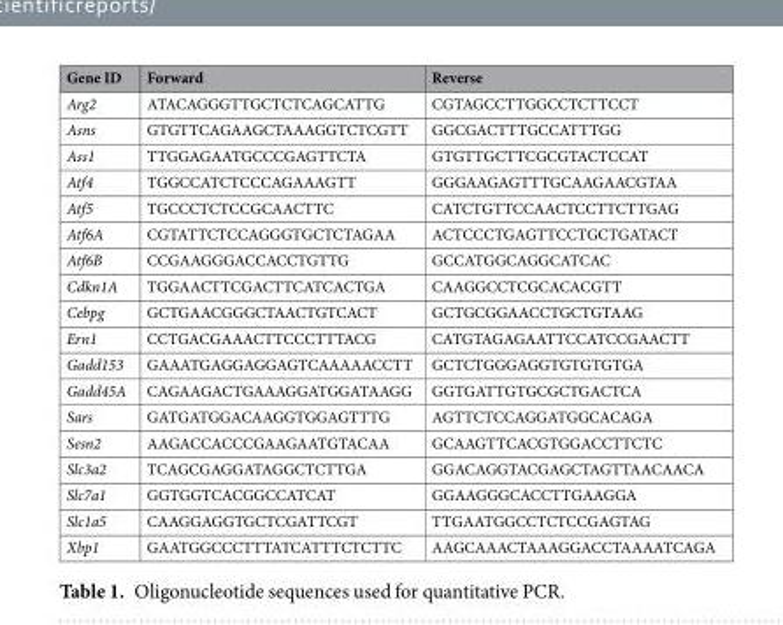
<table><thead><tr><td>Gene ID</td><td>Forward</td><td>Reverse</td></tr></thead><tbody><tr><td>Arg2</td><td>ATACAGGGTTGCTCTCAGCATTG</td><td>CGTAGCCTTGGCCTCTTCCT</td></tr><tr><td>Asns</td><td>GTGTTCAGAAGCTAAAGGTCTCGTT</td><td>GGCGACTTTGCCATTTGG</td></tr><tr><td>Ass1</td><td>TTGGAGAATGCCCGAGTTCTA</td><td>GTGTTGCTTCGCGTACTCCAT</td></tr><tr><td>Atf4</td><td>TGGCCATCTCCCAGAAAGTT</td><td>GGGAAGAGTTTGCAAGAACGTAA</td></tr><tr><td>Atf5</td><td>TGCCCTCTCCGCAACTTC</td><td>CATCTGTTCCAACTCCTTCTTGAG</td></tr><tr><td>Atf6A</td><td>CGTATTCTCCAGGGTGCTCTAGAA</td><td>ACTCCCTGAGTTCCTGCTGATACT</td></tr><tr><td>Atf6B</td><td>CCGAAGGGACCACCTGTTG</td><td>GCCATGGCAGGCATCAC</td></tr><tr><td>Cdkn1A</td><td>TGGAACTTCGACTTCATCACTGA</td><td>CAAGGCCTCGCACACGTT</td></tr><tr><td>Cebpg</td><td>GCTGAACGGGCTAACTGTCACT</td><td>GCTGCGGAACCTGCTGTAAG</td></tr><tr><td>Ern1</td><td>CCTGACGAAACTTCCCTTTACG</td><td>CATGTAGAGAATTCCATCCGAACTT</td></tr><tr><td>Gadd153</td><td>GAAATGAGGAGGAGTCAAAAACCTT</td><td>GCTCTGGGAGGTGTGTGTGA</td></tr><tr><td>Gadd45A</td><td>CAGAAGACTGAAAGGATGGATAAGG</td><td>GGTGATTGTGCGCTGACTCA</td></tr><tr><td>Sars</td><td>GATGATGGACAAGGTGGAGTTTG</td><td>AGTTCTCCAGGATGGCACAGA</td></tr><tr><td>Sesn2</td><td>AAGACCACCCGAAGAATGTACAA</td><td>GCAAGTTCACGTGGACCTTCTC</td></tr><tr><td>Slc3a2</td><td>TCAGCGAGGATAGGCTCTTGA</td><td>GGACAGGTACGAGCTAGTTAACAACA</td></tr><tr><td>Slc7a1</td><td>GGTGGTCACGGCCATCAT</td><td>GGAAGGGCACCTTGAAGGA</td></tr><tr><td>Slc1a5</td><td>CAAGGAGGTGCTCGATTCGT</td><td>TTGAATGGCCTCTCCGAGTAG</td></tr><tr><td>Xbp1</td><td>GAATGGCCCTTTATCATTTCTCTTC</td><td>AAGCAAACTAAAGGACCTAAAATCAGA</td></tr></tbody></table>